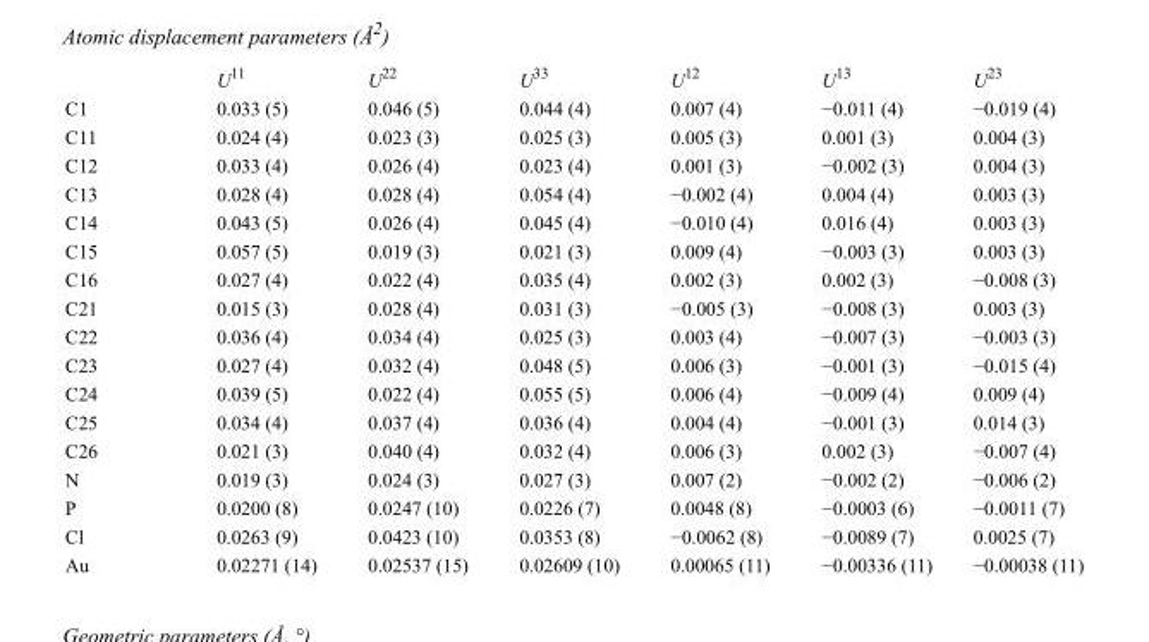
<table><thead><tr><td></td><td>U<sup>11</sup></td><td>U<sup>22</sup></td><td>U<sup>33</sup></td><td>U<sup>12</sup></td><td>U<sup>13</sup></td><td>U<sup>23</sup></td></tr></thead><tbody><tr><td>C1</td><td>0.033 (5)</td><td>0.046 (5)</td><td>0.044 (4)</td><td>0.007 (4)</td><td>−0.011 (4)</td><td>−0.019 (4)</td></tr><tr><td>C11</td><td>0.024 (4)</td><td>0.023 (3)</td><td>0.025 (3)</td><td>0.005 (3)</td><td>0.001 (3)</td><td>0.004 (3)</td></tr><tr><td>C12</td><td>0.033 (4)</td><td>0.026 (4)</td><td>0.023 (4)</td><td>0.001 (3)</td><td>−0.002 (3)</td><td>0.004 (3)</td></tr><tr><td>C13</td><td>0.028 (4)</td><td>0.028 (4)</td><td>0.054 (4)</td><td>−0.002 (4)</td><td>0.004 (4)</td><td>0.003 (3)</td></tr><tr><td>C14</td><td>0.043 (5)</td><td>0.026 (4)</td><td>0.045 (4)</td><td>−0.010 (4)</td><td>0.016 (4)</td><td>0.003 (3)</td></tr><tr><td>C15</td><td>0.057 (5)</td><td>0.019 (3)</td><td>0.021 (3)</td><td>0.009 (4)</td><td>−0.003 (3)</td><td>0.003 (3)</td></tr><tr><td>C16</td><td>0.027 (4)</td><td>0.022 (4)</td><td>0.035 (4)</td><td>0.002 (3)</td><td>0.002 (3)</td><td>−0.008 (3)</td></tr><tr><td>C21</td><td>0.015 (3)</td><td>0.028 (4)</td><td>0.031 (3)</td><td>−0.005 (3)</td><td>−0.008 (3)</td><td>0.003 (3)</td></tr><tr><td>C22</td><td>0.036 (4)</td><td>0.034 (4)</td><td>0.025 (3)</td><td>0.003 (4)</td><td>−0.007 (3)</td><td>−0.003 (3)</td></tr><tr><td>C23</td><td>0.027 (4)</td><td>0.032 (4)</td><td>0.048 (5)</td><td>0.006 (3)</td><td>−0.001 (3)</td><td>−0.015 (4)</td></tr><tr><td>C24</td><td>0.039 (5)</td><td>0.022 (4)</td><td>0.055 (5)</td><td>0.006 (4)</td><td>−0.009 (4)</td><td>0.009 (4)</td></tr><tr><td>C25</td><td>0.034 (4)</td><td>0.037 (4)</td><td>0.036 (4)</td><td>0.004 (4)</td><td>−0.001 (3)</td><td>0.014 (3)</td></tr><tr><td>C26</td><td>0.021 (3)</td><td>0.040 (4)</td><td>0.032 (4)</td><td>0.006 (3)</td><td>0.002 (3)</td><td>−0.007 (4)</td></tr><tr><td>N</td><td>0.019 (3)</td><td>0.024 (3)</td><td>0.027 (3)</td><td>0.007 (2)</td><td>−0.002 (2)</td><td>−0.006 (2)</td></tr><tr><td>P</td><td>0.0200 (8)</td><td>0.0247 (10)</td><td>0.0226 (7)</td><td>0.0048 (8)</td><td>−0.0003 (6)</td><td>−0.0011 (7)</td></tr><tr><td>Cl</td><td>0.0263 (9)</td><td>0.0423 (10)</td><td>0.0353 (8)</td><td>−0.0062 (8)</td><td>−0.0089 (7)</td><td>0.0025 (7)</td></tr><tr><td>Au</td><td>0.02271 (14)</td><td>0.02537 (15)</td><td>0.02609 (10)</td><td>0.00065 (11)</td><td>−0.00336 (11)</td><td>−0.00038 (11)</td></tr></tbody></table>